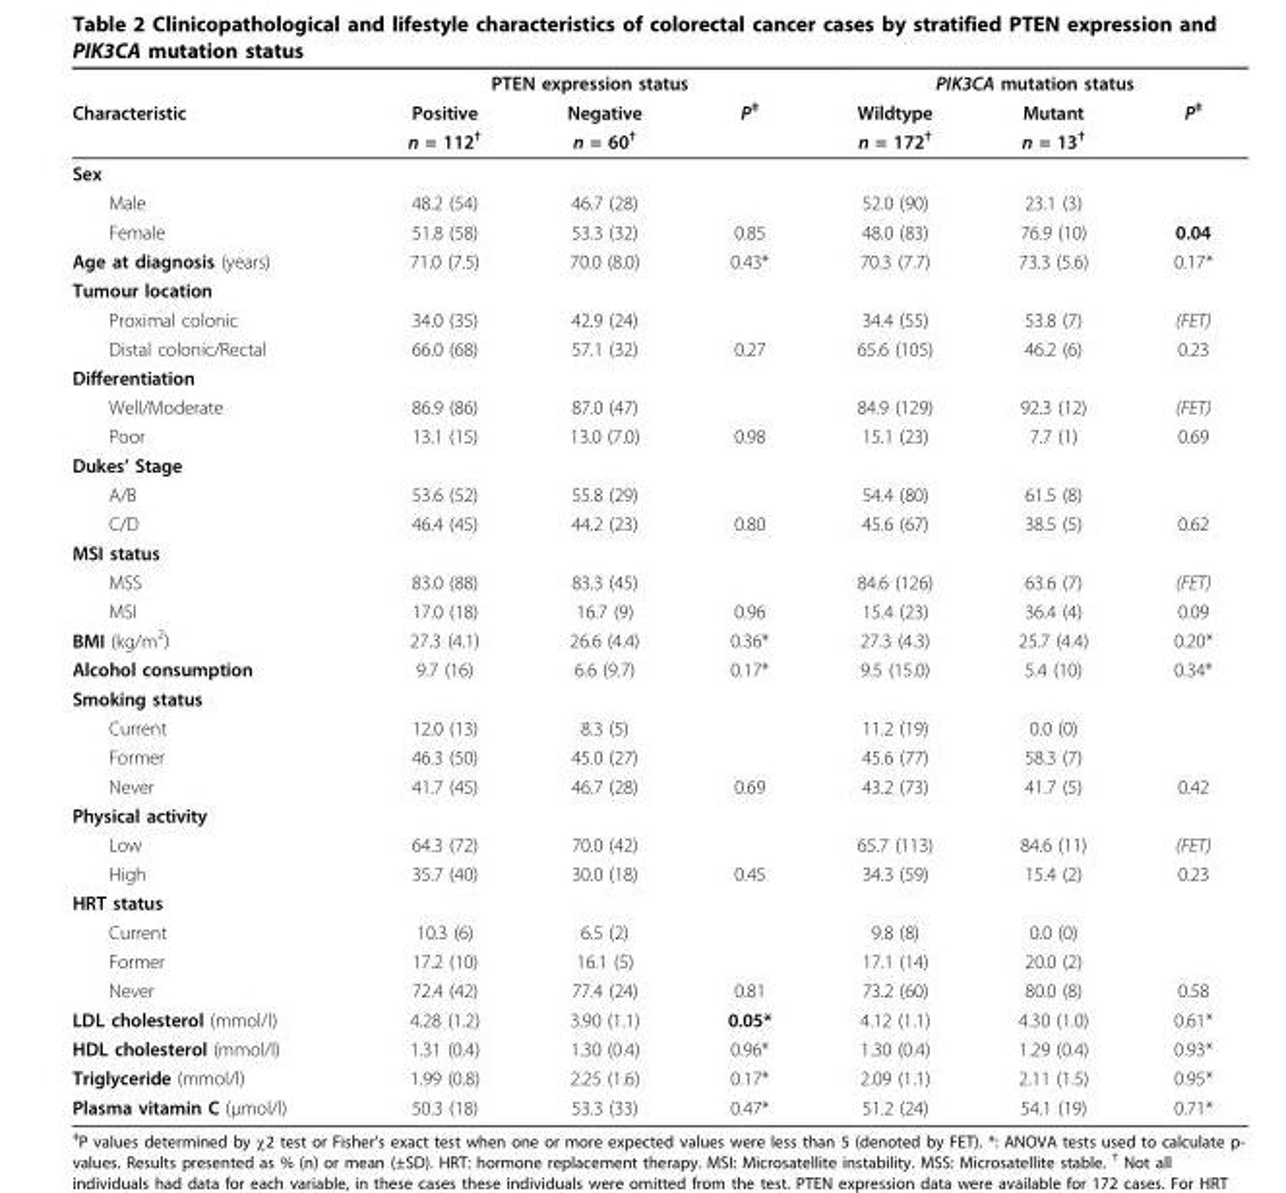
<table><thead><tr><td rowspan="3">Characteristic</td><td colspan="3">PTEN expression status</td><td colspan="3">PIK3CA mutation status</td></tr><tr><td rowspan="2">Positive n = 112<sup>†</sup></td><td rowspan="2">Negative n = 60<sup>†</sup></td><td rowspan="2">P<sup>‡</sup></td><td rowspan="2">Wildtype n = 172<sup>†</sup></td><td rowspan="2">Mutant n = 13<sup>†</sup></td><td rowspan="2">P<sup>‡</sup></td></tr><tr></tr></thead><tbody><tr><td colspan="7">Sex</td></tr><tr><td>Male</td><td>48.2 (54)</td><td>46.7 (28)</td><td></td><td>52.0 (90)</td><td>23.1 (3)</td><td></td></tr><tr><td>Female</td><td>51.8 (58)</td><td>53.3 (32)</td><td>0.85</td><td>48.0 (83)</td><td>76.9 (10)</td><td>0.04</td></tr><tr><td>Age at diagnosis (years)</td><td>71.0 (7.5)</td><td>70.0 (8.0)</td><td>0.43*</td><td>70.3 (7.7)</td><td>73.3 (5.6)</td><td>0.17*</td></tr><tr><td colspan="7">Tumour location</td></tr><tr><td>Proximal colonic</td><td>34.0 (35)</td><td>42.9 (24)</td><td></td><td>34.4 (55)</td><td>53.8 (7)</td><td>(FET)</td></tr><tr><td>Distal colonic/Rectal</td><td>66.0 (68)</td><td>57.1 (32)</td><td>0.27</td><td>65.6 (105)</td><td>46.2 (6)</td><td>0.23</td></tr><tr><td colspan="7">Differentiation</td></tr><tr><td>Well/Moderate</td><td>86.9 (86)</td><td>87.0 (47)</td><td></td><td>84.9 (129)</td><td>92.3 (12)</td><td>(FET)</td></tr><tr><td>Poor</td><td>13.1 (15)</td><td>13.0 (7.0)</td><td>0.98</td><td>15.1 (23)</td><td>7.7 (1)</td><td>0.69</td></tr><tr><td colspan="7">Dukes’ Stage</td></tr><tr><td>A/B</td><td>53.6 (52)</td><td>55.8 (29)</td><td></td><td>54.4 (80)</td><td>61.5 (8)</td><td></td></tr><tr><td>C/D</td><td>46.4 (45)</td><td>44.2 (23)</td><td>0.80</td><td>45.6 (67)</td><td>38.5 (5)</td><td>0.62</td></tr><tr><td colspan="7">MSI status</td></tr><tr><td>MSS</td><td>83.0 (88)</td><td>83.3 (45)</td><td></td><td>84.6 (126)</td><td>63.6 (7)</td><td>(FET)</td></tr><tr><td>MSI</td><td>17.0 (18)</td><td>16.7 (9)</td><td>0.96</td><td>15.4 (23)</td><td>36.4 (4)</td><td>0.09</td></tr><tr><td>BMI (kg/m<sup>2</sup>)</td><td>27.3 (4.1)</td><td>26.6 (4.4)</td><td>0.36*</td><td>27.3 (4.3)</td><td>25.7 (4.4)</td><td>0.20*</td></tr><tr><td>Alcohol consumption</td><td>9.7 (16)</td><td>6.6 (9.7)</td><td>0.17*</td><td>9.5 (15.0)</td><td>5.4 (10)</td><td>0.34*</td></tr><tr><td colspan="7">Smoking status</td></tr><tr><td>Current</td><td>12.0 (13)</td><td>8.3 (5)</td><td></td><td>11.2 (19)</td><td>0.0 (0)</td><td></td></tr><tr><td>Former</td><td>46.3 (50)</td><td>45.0 (27)</td><td></td><td>45.6 (77)</td><td>58.3 (7)</td><td></td></tr><tr><td>Never</td><td>41.7 (45)</td><td>46.7 (28)</td><td>0.69</td><td>43.2 (73)</td><td>41.7 (5)</td><td>0.42</td></tr><tr><td colspan="7">Physical activity</td></tr><tr><td>Low</td><td>64.3 (72)</td><td>70.0 (42)</td><td></td><td>65.7 (113)</td><td>84.6 (11)</td><td>(FET)</td></tr><tr><td>High</td><td>35.7 (40)</td><td>30.0 (18)</td><td>0.45</td><td>34.3 (59)</td><td>15.4 (2)</td><td>0.23</td></tr><tr><td colspan="7">HRT status</td></tr><tr><td>Current</td><td>10.3 (6)</td><td>6.5 (2)</td><td></td><td>9.8 (8)</td><td>0.0 (0)</td><td></td></tr><tr><td>Former</td><td>17.2 (10)</td><td>16.1 (5)</td><td></td><td>17.1 (14)</td><td>20.0 (2)</td><td></td></tr><tr><td>Never</td><td>72.4 (42)</td><td>77.4 (24)</td><td>0.81</td><td>73.2 (60)</td><td>80.0 (8)</td><td>0.58</td></tr><tr><td>LDL cholesterol (mmol/l)</td><td>4.28 (1.2)</td><td>3.90 (1.1)</td><td>0.05*</td><td>4.12 (1.1)</td><td>4.30 (1.0)</td><td>0.61*</td></tr><tr><td>HDL cholesterol (mmol/l)</td><td>1.31 (0.4)</td><td>1.30 (0.4)</td><td>0.96*</td><td>1.30 (0.4)</td><td>1.29 (0.4)</td><td>0.93*</td></tr><tr><td>Triglyceride (mmol/l)</td><td>1.99 (0.8)</td><td>2.25 (1.6)</td><td>0.17*</td><td>2.09 (1.1)</td><td>2.11 (1.5)</td><td>0.95*</td></tr><tr><td>Plasma vitamin C (μmol/l)</td><td>50.3 (18)</td><td>53.3 (33)</td><td>0.47*</td><td>51.2 (24)</td><td>54.1 (19)</td><td>0.71*</td></tr></tbody></table>